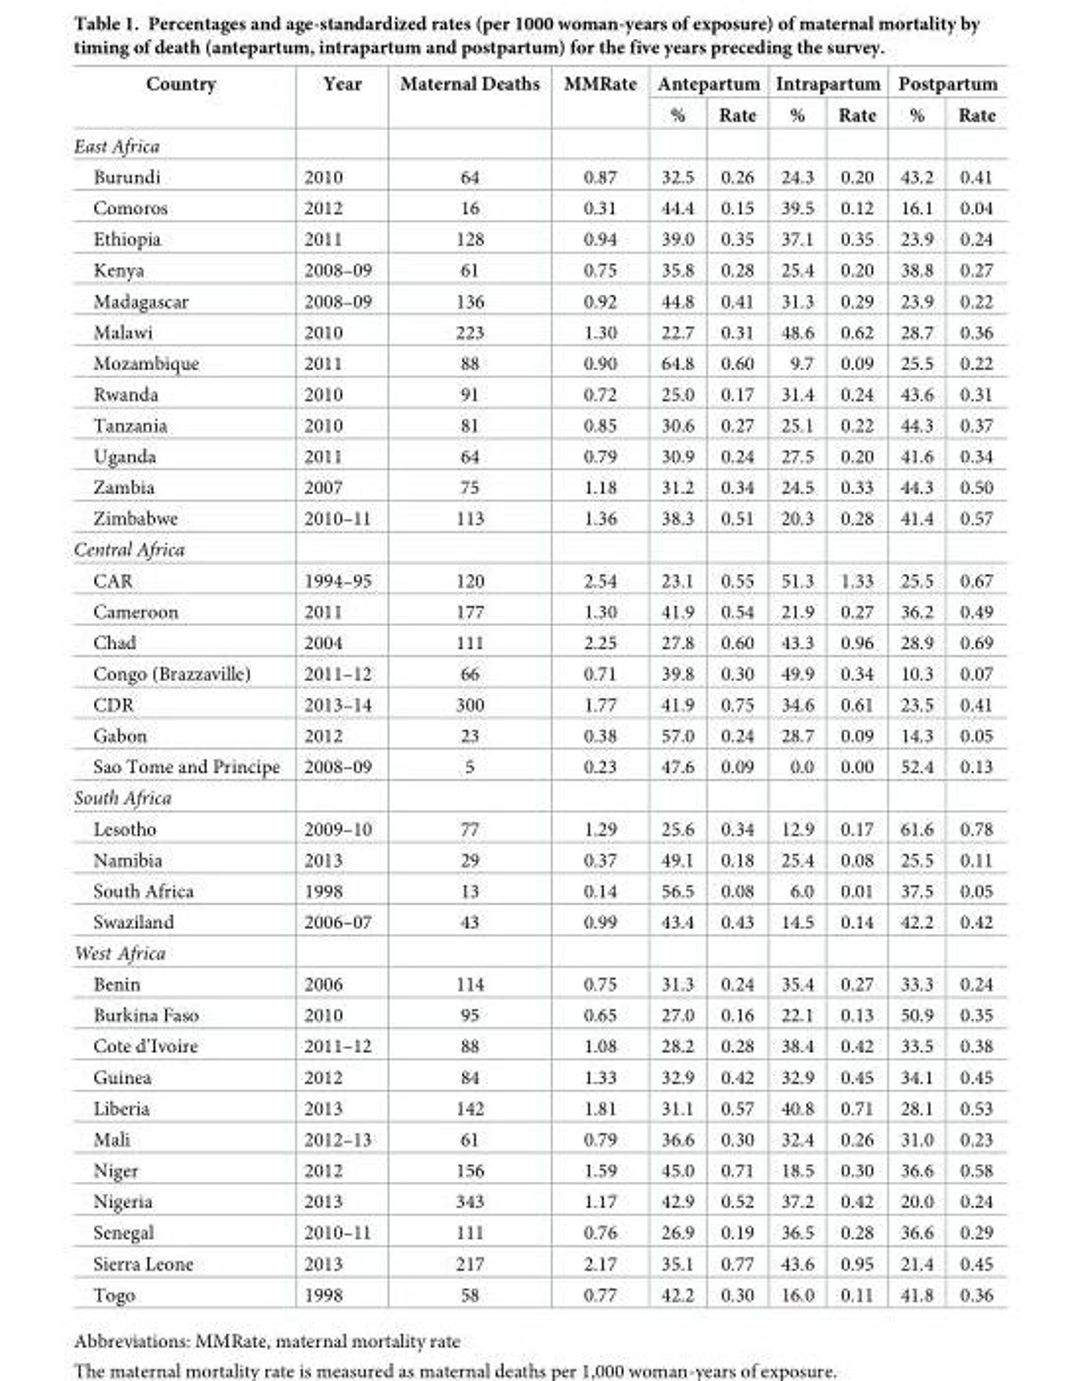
<table><thead><tr><td rowspan="2">Country</td><td rowspan="2">Year</td><td rowspan="2">Maternal Deaths</td><td rowspan="2">MMRate</td><td colspan="2">Antepartum</td><td colspan="2">Intrapartum</td><td colspan="2">Postpartum</td></tr><tr><td>%</td><td>Rate</td><td>%</td><td>Rate</td><td>%</td><td>Rate</td></tr></thead><tbody><tr><td colspan="10">East Africa</td></tr><tr><td>Burundi</td><td>2010</td><td>64</td><td>0.87</td><td>32.5</td><td>0.26</td><td>24.3</td><td>0.20</td><td>43.2</td><td>0.41</td></tr><tr><td>Comoros</td><td>2012</td><td>16</td><td>0.31</td><td>44.4</td><td>0.15</td><td>39.5</td><td>0.12</td><td>16.1</td><td>0.04</td></tr><tr><td>Ethiopia</td><td>2011</td><td>128</td><td>0.94</td><td>39.0</td><td>0.35</td><td>37.1</td><td>0.35</td><td>23.9</td><td>0.24</td></tr><tr><td>Kenya</td><td>2008–09</td><td>61</td><td>0.75</td><td>35.8</td><td>0.28</td><td>25.4</td><td>0.20</td><td>38.8</td><td>0.27</td></tr><tr><td>Madagascar</td><td>2008–09</td><td>136</td><td>0.92</td><td>44.8</td><td>0.41</td><td>31.3</td><td>0.29</td><td>23.9</td><td>0.22</td></tr><tr><td>Malawi</td><td>2010</td><td>223</td><td>1.30</td><td>22.7</td><td>0.31</td><td>48.6</td><td>0.62</td><td>28.7</td><td>0.36</td></tr><tr><td>Mozambique</td><td>2011</td><td>88</td><td>0.90</td><td>64.8</td><td>0.60</td><td>9.7</td><td>0.09</td><td>25.5</td><td>0.22</td></tr><tr><td>Rwanda</td><td>2010</td><td>91</td><td>0.72</td><td>25.0</td><td>0.17</td><td>31.4</td><td>0.24</td><td>43.6</td><td>0.31</td></tr><tr><td>Tanzania</td><td>2010</td><td>81</td><td>0.85</td><td>30.6</td><td>0.27</td><td>25.1</td><td>0.22</td><td>44.3</td><td>0.37</td></tr><tr><td>Uganda</td><td>2011</td><td>64</td><td>0.79</td><td>30.9</td><td>0.24</td><td>27.5</td><td>0.20</td><td>41.6</td><td>0.34</td></tr><tr><td>Zambia</td><td>2007</td><td>75</td><td>1.18</td><td>31.2</td><td>0.34</td><td>24.5</td><td>0.33</td><td>44.3</td><td>0.50</td></tr><tr><td>Zimbabwe</td><td>2010–11</td><td>113</td><td>1.36</td><td>38.3</td><td>0.51</td><td>20.3</td><td>0.28</td><td>41.4</td><td>0.57</td></tr><tr><td colspan="10">Central Africa</td></tr><tr><td>CAR</td><td>1994–95</td><td>120</td><td>2.54</td><td>23.1</td><td>0.55</td><td>51.3</td><td>1.33</td><td>25.5</td><td>0.67</td></tr><tr><td>Cameroon</td><td>2011</td><td>177</td><td>1.30</td><td>41.9</td><td>0.54</td><td>21.9</td><td>0.27</td><td>36.2</td><td>0.49</td></tr><tr><td>Chad</td><td>2004</td><td>111</td><td>2.25</td><td>27.8</td><td>0.60</td><td>43.3</td><td>0.96</td><td>28.9</td><td>0.69</td></tr><tr><td>Congo (Brazzaville)</td><td>2011–12</td><td>66</td><td>0.71</td><td>39.8</td><td>0.30</td><td>49.9</td><td>0.34</td><td>10.3</td><td>0.07</td></tr><tr><td>CDR</td><td>2013–14</td><td>300</td><td>1.77</td><td>41.9</td><td>0.75</td><td>34.6</td><td>0.61</td><td>23.5</td><td>0.41</td></tr><tr><td>Gabon</td><td>2012</td><td>23</td><td>0.38</td><td>57.0</td><td>0.24</td><td>28.7</td><td>0.09</td><td>14.3</td><td>0.05</td></tr><tr><td>Sao Tome and Principe</td><td>2008–09</td><td>5</td><td>0.23</td><td>47.6</td><td>0.09</td><td>0.0</td><td>0.00</td><td>52.4</td><td>0.13</td></tr><tr><td colspan="10">South Africa</td></tr><tr><td>Lesotho</td><td>2009–10</td><td>77</td><td>1.29</td><td>25.6</td><td>0.34</td><td>12.9</td><td>0.17</td><td>61.6</td><td>0.78</td></tr><tr><td>Namibia</td><td>2013</td><td>29</td><td>0.37</td><td>49.1</td><td>0.18</td><td>25.4</td><td>0.08</td><td>25.5</td><td>0.11</td></tr><tr><td>South Africa</td><td>1998</td><td>13</td><td>0.14</td><td>56.5</td><td>0.08</td><td>6.0</td><td>0.01</td><td>37.5</td><td>0.05</td></tr><tr><td>Swaziland</td><td>2006–07</td><td>43</td><td>0.99</td><td>43.4</td><td>0.43</td><td>14.5</td><td>0.14</td><td>42.2</td><td>0.42</td></tr><tr><td colspan="10">West Africa</td></tr><tr><td>Benin</td><td>2006</td><td>114</td><td>0.75</td><td>31.3</td><td>0.24</td><td>35.4</td><td>0.27</td><td>33.3</td><td>0.24</td></tr><tr><td>Burkina Faso</td><td>2010</td><td>95</td><td>0.65</td><td>27.0</td><td>0.16</td><td>22.1</td><td>0.13</td><td>50.9</td><td>0.35</td></tr><tr><td>Cote d’Ivoire</td><td>2011–12</td><td>88</td><td>1.08</td><td>28.2</td><td>0.28</td><td>38.4</td><td>0.42</td><td>33.5</td><td>0.38</td></tr><tr><td>Guinea</td><td>2012</td><td>84</td><td>1.33</td><td>32.9</td><td>0.42</td><td>32.9</td><td>0.45</td><td>34.1</td><td>0.45</td></tr><tr><td>Liberia</td><td>2013</td><td>142</td><td>1.81</td><td>31.1</td><td>0.57</td><td>40.8</td><td>0.71</td><td>28.1</td><td>0.53</td></tr><tr><td>Mali</td><td>2012–13</td><td>61</td><td>0.79</td><td>36.6</td><td>0.30</td><td>32.4</td><td>0.26</td><td>31.0</td><td>0.23</td></tr><tr><td>Niger</td><td>2012</td><td>156</td><td>1.59</td><td>45.0</td><td>0.71</td><td>18.5</td><td>0.30</td><td>36.6</td><td>0.58</td></tr><tr><td>Nigeria</td><td>2013</td><td>343</td><td>1.17</td><td>42.9</td><td>0.52</td><td>37.2</td><td>0.42</td><td>20.0</td><td>0.24</td></tr><tr><td>Senegal</td><td>2010–11</td><td>111</td><td>0.76</td><td>26.9</td><td>0.19</td><td>36.5</td><td>0.28</td><td>36.6</td><td>0.29</td></tr><tr><td>Sierra Leone</td><td>2013</td><td>217</td><td>2.17</td><td>35.1</td><td>0.77</td><td>43.6</td><td>0.95</td><td>21.4</td><td>0.45</td></tr><tr><td>Togo</td><td>1998</td><td>58</td><td>0.77</td><td>42.2</td><td>0.30</td><td>16.0</td><td>0.11</td><td>41.8</td><td>0.36</td></tr></tbody></table>